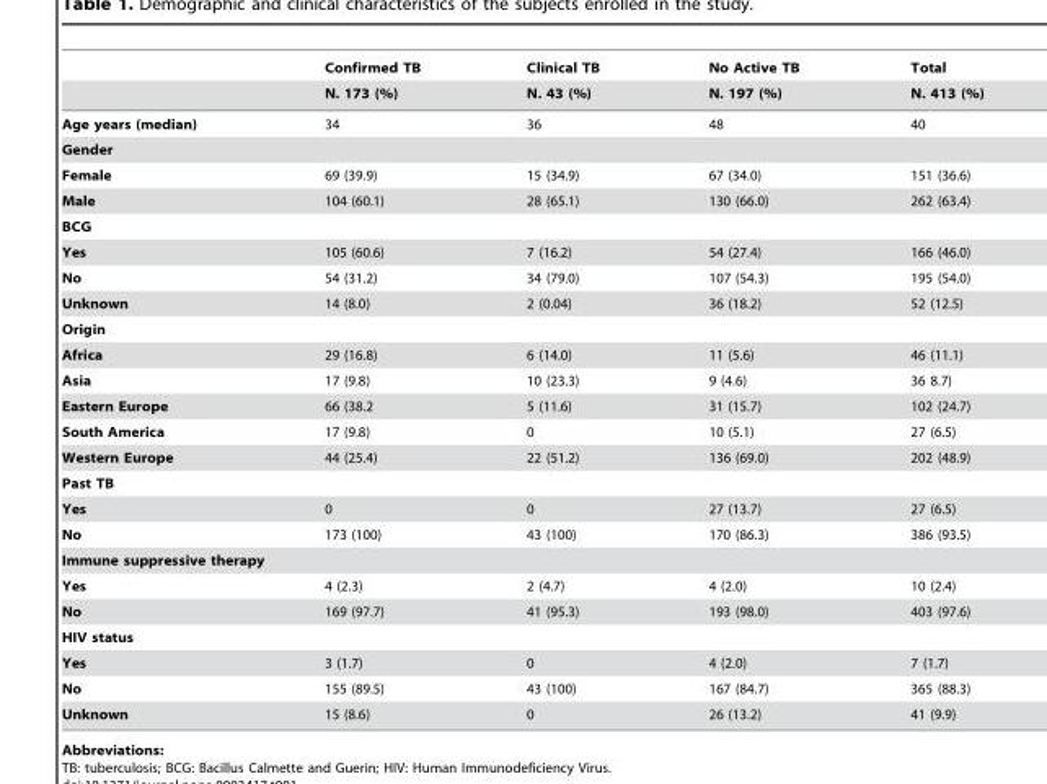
<table><thead><tr><td rowspan="2"></td><td rowspan="2">Confirmed TB N. 173 (%)</td><td rowspan="2">Clinical TB N. 43 (%)</td><td rowspan="2">No Active TB N. 197 (%)</td><td rowspan="2">Total N. 413 (%)</td></tr><tr></tr></thead><tbody><tr><td>Age years (median)</td><td>34</td><td>36</td><td>48</td><td>40</td></tr><tr><td colspan="5">Gender</td></tr><tr><td>Female</td><td>69 (39.9)</td><td>15 (34.9)</td><td>67 (34.0)</td><td>151 (36.6)</td></tr><tr><td>Male</td><td>104 (60.1)</td><td>28 (65.1)</td><td>130 (66.0)</td><td>262 (63.4)</td></tr><tr><td colspan="5">BCG</td></tr><tr><td>Yes</td><td>105 (60.6)</td><td>7 (16.2)</td><td>54 (27.4)</td><td>166 (46.0)</td></tr><tr><td>No</td><td>54 (31.2)</td><td>34 (79.0)</td><td>107 (54.3)</td><td>195 (54.0)</td></tr><tr><td>Unknown</td><td>14 (8.0)</td><td>2 (0.04)</td><td>36 (18.2)</td><td>52 (12.5)</td></tr><tr><td colspan="5">Origin</td></tr><tr><td>Africa</td><td>29 (16.8)</td><td>6 (14.0)</td><td>11 (5.6)</td><td>46 (11.1)</td></tr><tr><td>Asia</td><td>17 (9.8)</td><td>10 (23.3)</td><td>9 (4.6)</td><td>36 8.7)</td></tr><tr><td>Eastern Europe</td><td>66 (38.2</td><td>5 (11.6)</td><td>31 (15.7)</td><td>102 (24.7)</td></tr><tr><td>South America</td><td>17 (9.8)</td><td>0</td><td>10 (5.1)</td><td>27 (6.5)</td></tr><tr><td>Western Europe</td><td>44 (25.4)</td><td>22 (51.2)</td><td>136 (69.0)</td><td>202 (48.9)</td></tr><tr><td colspan="5">Past TB</td></tr><tr><td>Yes</td><td>0</td><td>0</td><td>27 (13.7)</td><td>27 (6.5)</td></tr><tr><td>No</td><td>173 (100)</td><td>43 (100)</td><td>170 (86.3)</td><td>386 (93.5)</td></tr><tr><td colspan="5">Immune suppressive therapy</td></tr><tr><td>Yes</td><td>4 (2.3)</td><td>2 (4.7)</td><td>4 (2.0)</td><td>10 (2.4)</td></tr><tr><td>No</td><td>169 (97.7)</td><td>41 (95.3)</td><td>193 (98.0)</td><td>403 (97.6)</td></tr><tr><td colspan="5">HIV status</td></tr><tr><td>Yes</td><td>3 (1.7)</td><td>0</td><td>4 (2.0)</td><td>7 (1.7)</td></tr><tr><td>No</td><td>155 (89.5)</td><td>43 (100)</td><td>167 (84.7)</td><td>365 (88.3)</td></tr><tr><td>Unknown</td><td>15 (8.6)</td><td>0</td><td>26 (13.2)</td><td>41 (9.9)</td></tr></tbody></table>